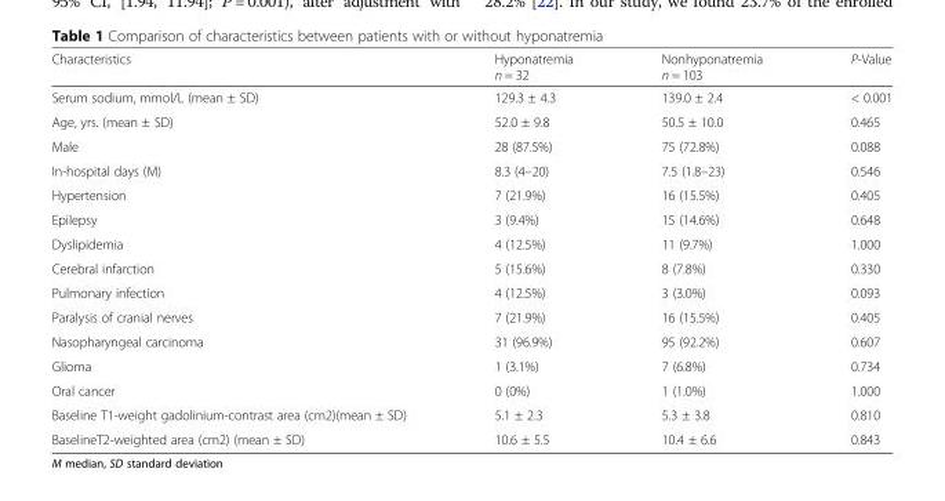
<table><thead><tr><td>Characteristics</td><td>Hyponatremia n = 32</td><td>Nonhyponatremia n = 103</td><td>P-Value</td></tr></thead><tbody><tr><td>Serum sodium, mmol/L (mean ± SD)</td><td>129.3 ± 4.3</td><td>139.0 ± 2.4</td><td>&lt; 0.001</td></tr><tr><td>Age, yrs. (mean ± SD)</td><td>52.0 ± 9.8</td><td>50.5 ± 10.0</td><td>0.465</td></tr><tr><td>Male</td><td>28 (87.5%)</td><td>75 (72.8%)</td><td>0.088</td></tr><tr><td>In-hospital days (M)</td><td>8.3 (4–20)</td><td>7.5 (1.8–23)</td><td>0.546</td></tr><tr><td>Hypertension</td><td>7 (21.9%)</td><td>16 (15.5%)</td><td>0.405</td></tr><tr><td>Epilepsy</td><td>3 (9.4%)</td><td>15 (14.6%)</td><td>0.648</td></tr><tr><td>Dyslipidemia</td><td>4 (12.5%)</td><td>11 (9.7%)</td><td>1.000</td></tr><tr><td>Cerebral infarction</td><td>5 (15.6%)</td><td>8 (7.8%)</td><td>0.330</td></tr><tr><td>Pulmonary infection</td><td>4 (12.5%)</td><td>3 (3.0%)</td><td>0.093</td></tr><tr><td>Paralysis of cranial nerves</td><td>7 (21.9%)</td><td>16 (15.5%)</td><td>0.405</td></tr><tr><td>Nasopharyngeal carcinoma</td><td>31 (96.9%)</td><td>95 (92.2%)</td><td>0.607</td></tr><tr><td>Glioma</td><td>1 (3.1%)</td><td>7 (6.8%)</td><td>0.734</td></tr><tr><td>Oral cancer</td><td>0 (0%)</td><td>1 (1.0%)</td><td>1.000</td></tr><tr><td>Baseline T1-weight gadolinium-contrast area (cm2)(mean ± SD)</td><td>5.1 ± 2.3</td><td>5.3 ± 3.8</td><td>0.810</td></tr><tr><td>BaselineT2-weighted area (cm2) (mean ± SD)</td><td>10.6 ± 5.5</td><td>10.4 ± 6.6</td><td>0.843</td></tr></tbody></table>